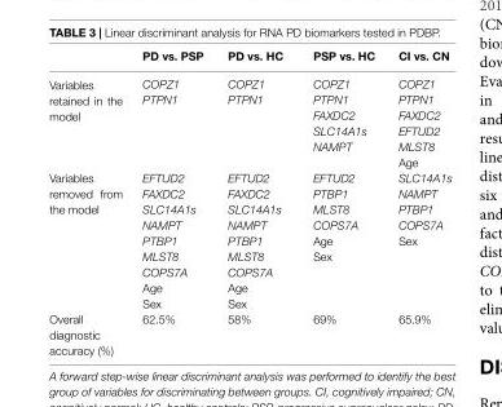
<table><thead><tr><td></td><td>PD vs. PSP</td><td>PD vs. HC</td><td>PSP vs. HC</td><td>CI vs. CN</td></tr></thead><tbody><tr><td>Variables retained in the model</td><td>COPZ1 PTPN1</td><td>COPZ1 PTPN1</td><td>COPZ1 PTPN1 FAXDC2 SLC14A1s NAMPT</td><td>COPZ1 PTPN1 FAXDC2 EFTUD2 MLST8 Age</td></tr><tr><td>Variables removed from the model</td><td>EFTUD2 FAXDC2 SLC14A1s NAMPT PTBP1 MLST8 COPS7A Age Sex</td><td>EFTUD2 FAXDC2 SLC14A1s NAMPT PTBP1 MLST8 COPS7A Age Sex</td><td>EFTUD2 PTBP1 MLST8 COPS7A Age Sex</td><td>SLC14A1s NAMPT PTBP1 COPS7A Sex</td></tr><tr><td>Overall diagnostic accuracy (%)</td><td>62.5%</td><td>58%</td><td>69%</td><td>65.9%</td></tr></tbody></table>